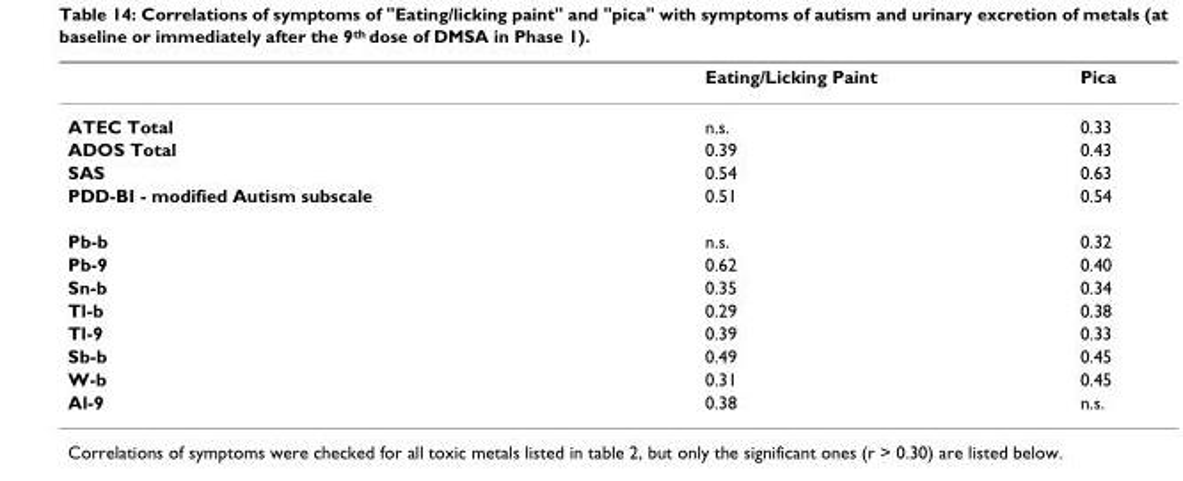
<table><thead><tr><td></td><td>Eating/Licking Paint</td><td>Pica</td></tr></thead><tbody><tr><td>ATEC Total</td><td>n.s.</td><td>0.33</td></tr><tr><td>ADOS Total</td><td>0.39</td><td>0.43</td></tr><tr><td>SAS</td><td>0.54</td><td>0.63</td></tr><tr><td>PDD-BI - modified Autism subscale</td><td>0.51</td><td>0.54</td></tr><tr><td>Pb-b</td><td>n.s.</td><td>0.32</td></tr><tr><td>Pb-9</td><td>0.62</td><td>0.40</td></tr><tr><td>Sn-b</td><td>0.35</td><td>0.34</td></tr><tr><td>Tl-b</td><td>0.29</td><td>0.38</td></tr><tr><td>Tl-9</td><td>0.39</td><td>0.33</td></tr><tr><td>Sb-b</td><td>0.49</td><td>0.45</td></tr><tr><td>W-b</td><td>0.31</td><td>0.45</td></tr><tr><td>Al-9</td><td>0.38</td><td>n.s.</td></tr></tbody></table>